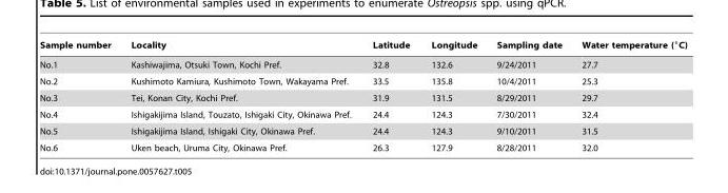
<table><thead><tr><td>Sample number</td><td>Locality</td><td>Latitude</td><td>Longitude</td><td>Sampling date</td><td>Water temperature (°C)</td></tr></thead><tbody><tr><td>No.1</td><td>Kashiwajima, Otsuki Town, Kochi Pref.</td><td>32.8</td><td>132.6</td><td>9/24/2011</td><td>27.7</td></tr><tr><td>No.2</td><td>Kushimoto Kamiura, Kushimoto Town, Wakayama Pref.</td><td>33.5</td><td>135.8</td><td>10/4/2011</td><td>25.3</td></tr><tr><td>No.3</td><td>Tei, Konan City, Kochi Pref.</td><td>31.9</td><td>131.5</td><td>8/29/2011</td><td>29.7</td></tr><tr><td>No.4</td><td>Ishigakijima Island, Touzato, Ishigaki City, Okinawa Pref.</td><td>24.4</td><td>124.3</td><td>7/30/2011</td><td>32.4</td></tr><tr><td>No.5</td><td>Ishigakijima Island, Ishigaki City, Okinawa Pref.</td><td>24.4</td><td>124.3</td><td>9/10/2011</td><td>31.5</td></tr><tr><td>No.6</td><td>Uken beach, Uruma City, Okinawa Pref.</td><td>26.3</td><td>127.9</td><td>8/28/2011</td><td>32.0</td></tr></tbody></table>